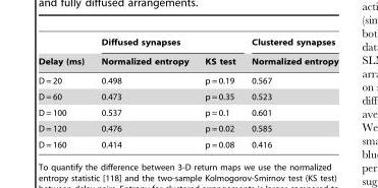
<table><thead><tr><td rowspan="2">Delay (ms)</td><td colspan="2">Diffused synapses</td><td rowspan="2">Clustered synapses Normalized entropy</td></tr><tr><td>Normalized entropy</td><td>KS test</td></tr></thead><tbody><tr><td>D = 20</td><td>0.498</td><td>p = 0.19</td><td>0.567</td></tr><tr><td>D = 60</td><td>0.473</td><td>p = 0.35</td><td>0.523</td></tr><tr><td>D = 100</td><td>0.537</td><td>p = 0.1</td><td>0.601</td></tr><tr><td>D = 120</td><td>0.476</td><td>p = 0.02</td><td>0.585</td></tr><tr><td>D = 160</td><td>0.414</td><td>p = 0.08</td><td>0.416</td></tr></tbody></table>